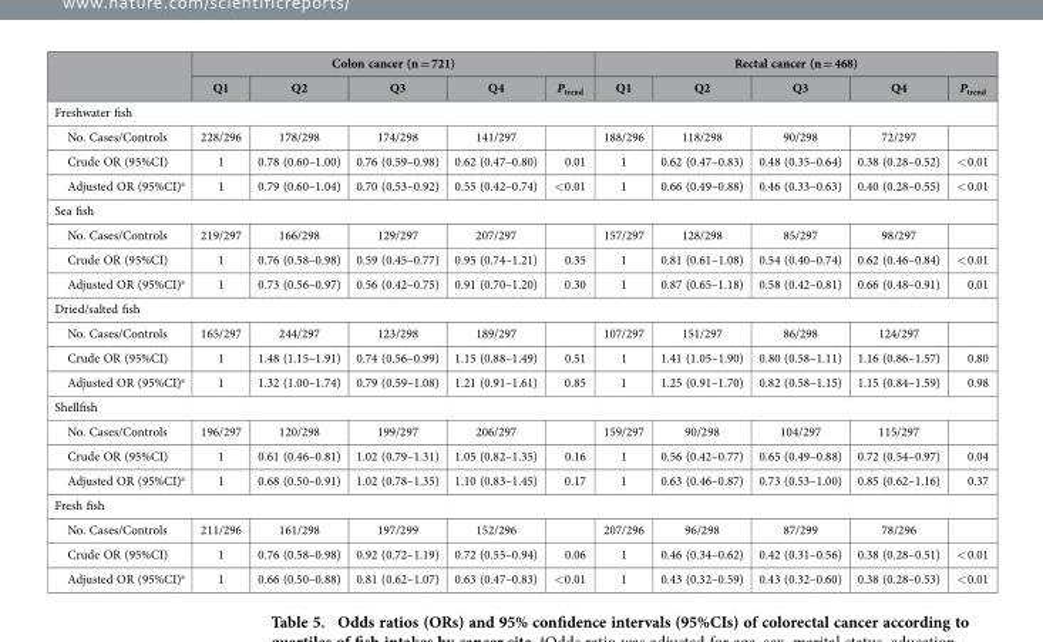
<table><thead><tr><td rowspan="2"></td><td colspan="5">Colon cancer (n = 721)</td><td colspan="5">Rectal cancer (n = 468)</td></tr><tr><td>Q1</td><td>Q2</td><td>Q3</td><td>Q4</td><td>P<sub>trend</sub></td><td>Q1</td><td>Q2</td><td>Q3</td><td>Q4</td><td>P<sub>trend</sub></td></tr></thead><tbody><tr><td colspan="11">Freshwater fish</td></tr><tr><td>No. Cases/Controls</td><td>228/296</td><td>178/298</td><td>174/298</td><td>141/297</td><td></td><td>188/296</td><td>118/298</td><td>90/298</td><td>72/297</td><td></td></tr><tr><td>Crude OR (95%CI)</td><td>1</td><td>0.78 (0.60–1.00)</td><td>0.76 (0.59–0.98)</td><td>0.62 (0.47–0.80)</td><td>0.01</td><td>1</td><td>0.62 (0.47–0.83)</td><td>0.48 (0.35–0.64)</td><td>0.38 (0.28–0.52)</td><td>&lt; 0.01</td></tr><tr><td>Adjusted OR (95%CI)<sup>a</sup></td><td>1</td><td>0.79 (0.60–1.04)</td><td>0.70 (0.53–0.92)</td><td>0.55 (0.42–0.74)</td><td>&lt; 0.01</td><td>1</td><td>0.66 (0.49–0.88)</td><td>0.46 (0.33–0.63)</td><td>0.40 (0.28–0.55)</td><td>&lt; 0.01</td></tr><tr><td colspan="11">Sea fish</td></tr><tr><td>No. Cases/Controls</td><td>219/297</td><td>166/298</td><td>129/297</td><td>207/297</td><td></td><td>157/297</td><td>128/298</td><td>85/297</td><td>98/297</td><td></td></tr><tr><td>Crude OR (95%CI)</td><td>1</td><td>0.76 (0.58–0.98)</td><td>0.59 (0.45–0.77)</td><td>0.95 (0.74–1.21)</td><td>0.35</td><td>1</td><td>0.81 (0.61–1.08)</td><td>0.54 (0.40–0.74)</td><td>0.62 (0.46–0.84)</td><td>&lt; 0.01</td></tr><tr><td>Adjusted OR (95%CI)<sup>a</sup></td><td>1</td><td>0.73 (0.56–0.97)</td><td>0.56 (0.42–0.75)</td><td>0.91 (0.70–1.20)</td><td>0.30</td><td>1</td><td>0.87 (0.65–1.18)</td><td>0.58 (0.42–0.81)</td><td>0.66 (0.48–0.91)</td><td>0.01</td></tr><tr><td colspan="11">Dried/salted fish</td></tr><tr><td>No. Cases/Controls</td><td>165/297</td><td>244/297</td><td>123/298</td><td>189/297</td><td></td><td>107/297</td><td>151/297</td><td>86/298</td><td>124/297</td><td></td></tr><tr><td>Crude OR (95%CI)</td><td>1</td><td>1.48 (1.15–1.91)</td><td>0.74 (0.56–0.99)</td><td>1.15 (0.88–1.49)</td><td>0.51</td><td>1</td><td>1.41 (1.05–1.90)</td><td>0.80 (0.58–1.11)</td><td>1.16 (0.86–1.57)</td><td>0.80</td></tr><tr><td>Adjusted OR (95%CI)<sup>a</sup></td><td>1</td><td>1.32 (1.00–1.74)</td><td>0.79 (0.59–1.08)</td><td>1.21 (0.91–1.61)</td><td>0.85</td><td>1</td><td>1.25 (0.91–1.70)</td><td>0.82 (0.58–1.15)</td><td>1.15 (0.84–1.59)</td><td>0.98</td></tr><tr><td colspan="11">Shellfish</td></tr><tr><td>No. Cases/Controls</td><td>196/297</td><td>120/298</td><td>199/297</td><td>206/297</td><td></td><td>159/297</td><td>90/298</td><td>104/297</td><td>115/297</td><td></td></tr><tr><td>Crude OR (95%CI)</td><td>1</td><td>0.61 (0.46–0.81)</td><td>1.02 (0.79–1.31)</td><td>1.05 (0.82–1.35)</td><td>0.16</td><td>1</td><td>0.56 (0.42–0.77)</td><td>0.65 (0.49–0.88)</td><td>0.72 (0.54–0.97)</td><td>0.04</td></tr><tr><td>Adjusted OR (95%CI)<sup>a</sup></td><td>1</td><td>0.68 (0.50–0.91)</td><td>1.02 (0.78–1.35)</td><td>1.10 (0.83–1.45)</td><td>0.17</td><td>1</td><td>0.63 (0.46–0.87)</td><td>0.73 (0.53–1.00)</td><td>0.85 (0.62–1.16)</td><td>0.37</td></tr><tr><td colspan="11">Fresh fish</td></tr><tr><td>No. Cases/Controls</td><td>211/296</td><td>161/298</td><td>197/299</td><td>152/296</td><td></td><td>207/296</td><td>96/298</td><td>87/299</td><td>78/296</td><td></td></tr><tr><td>Crude OR (95%CI)</td><td>1</td><td>0.76 (0.58–0.98)</td><td>0.92 (0.72–1.19)</td><td>0.72 (0.55–0.94)</td><td>0.06</td><td>1</td><td>0.46 (0.34–0.62)</td><td>0.42 (0.31–0.56)</td><td>0.38 (0.28–0.51)</td><td>&lt; 0.01</td></tr><tr><td>Adjusted OR (95%CI)<sup>a</sup></td><td>1</td><td>0.66 (0.50–0.88)</td><td>0.81 (0.62–1.07)</td><td>0.63 (0.47–0.83)</td><td>&lt; 0.01</td><td>1</td><td>0.43 (0.32–0.59)</td><td>0.43 (0.32–0.60)</td><td>0.38 (0.28–0.53)</td><td>&lt; 0.01</td></tr></tbody></table>